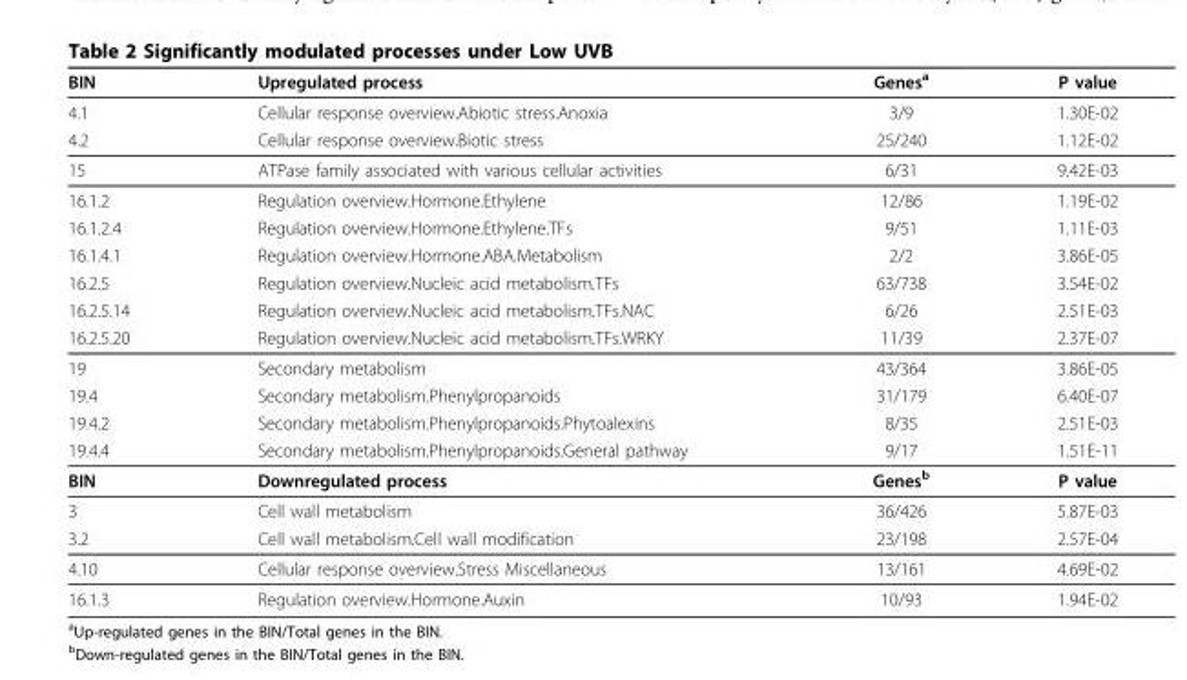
<table><thead><tr><td>BIN</td><td>Upregulated process</td><td>Genes<sup>a</sup></td><td>P value</td></tr></thead><tbody><tr><td>4.1</td><td>Cellular response overview.Abiotic stress.Anoxia</td><td>3/9</td><td>1.30E-02</td></tr><tr><td>4.2</td><td>Cellular response overview.Biotic stress</td><td>25/240</td><td>1.12E-02</td></tr><tr><td>15</td><td>ATPase family associated with various cellular activities</td><td>6/31</td><td>9.42E-03</td></tr><tr><td>16.1.2</td><td>Regulation overview.Hormone.Ethylene</td><td>12/86</td><td>1.19E-02</td></tr><tr><td>16.1.2.4</td><td>Regulation overview.Hormone.Ethylene.TFs</td><td>9/51</td><td>1.11E-03</td></tr><tr><td>16.1.4.1</td><td>Regulation overview.Hormone.ABA.Metabolism</td><td>2/2</td><td>3.86E-05</td></tr><tr><td>16.2.5</td><td>Regulation overview.Nucleic acid metabolism.TFs</td><td>63/738</td><td>3.54E-02</td></tr><tr><td>16.2.5.14</td><td>Regulation overview.Nucleic acid metabolism.TFs.NAC</td><td>6/26</td><td>2.51E-03</td></tr><tr><td>16.2.5.20</td><td>Regulation overview.Nucleic acid metabolism.TFs.WRKY</td><td>11/39</td><td>2.37E-07</td></tr><tr><td>19</td><td>Secondary metabolism</td><td>43/364</td><td>3.86E-05</td></tr><tr><td>19.4</td><td>Secondary metabolism.Phenylpropanoids</td><td>31/179</td><td>6.40E-07</td></tr><tr><td>19.4.2</td><td>Secondary metabolism.Phenylpropanoids.Phytoalexins</td><td>8/35</td><td>2.51E-03</td></tr><tr><td>19.4.4</td><td>Secondary metabolism.Phenylpropanoids.General pathway</td><td>9/17</td><td>1.51E-11</td></tr><tr><td>BIN</td><td>Downregulated process</td><td>Genes<sup>b</sup></td><td>P value</td></tr><tr><td>3</td><td>Cell wall metabolism</td><td>36/426</td><td>5.87E-03</td></tr><tr><td>3.2</td><td>Cell wall metabolism.Cell wall modification</td><td>23/198</td><td>2.57E-04</td></tr><tr><td>4.10</td><td>Cellular response overview.Stress Miscellaneous</td><td>13/161</td><td>4.69E-02</td></tr><tr><td>16.1.3</td><td>Regulation overview.Hormone.Auxin</td><td>10/93</td><td>1.94E-02</td></tr></tbody></table>